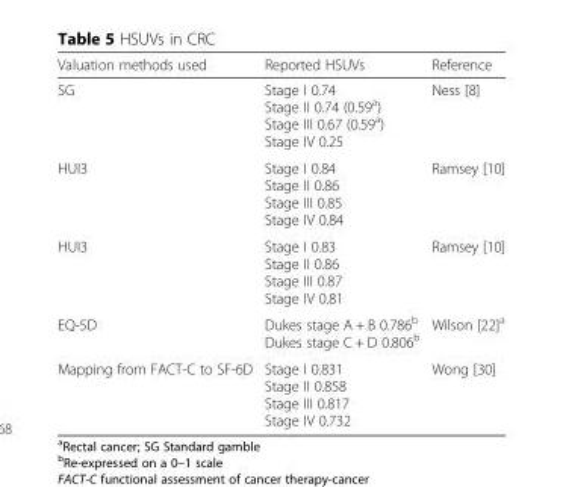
<table><thead><tr><td>Valuation methods used</td><td>Reported HSUVs</td><td>Reference</td></tr></thead><tbody><tr><td>SG</td><td>Stage I 0.74 Stage II 0.74 (0.59<sup>a</sup>) Stage III 0.67 (0.59<sup>a</sup>) Stage IV 0.25</td><td>Ness [8]</td></tr><tr><td>HUI3</td><td>Stage I 0.84 Stage II 0.86 Stage III 0.85 Stage IV 0.84</td><td>Ramsey [10]</td></tr><tr><td>HUI3</td><td>Stage I 0.83 Stage II 0.86 Stage III 0.87 Stage IV 0.81</td><td>Ramsey [10]</td></tr><tr><td>EQ-5D</td><td>Dukes stage A + B 0.786<sup>b</sup> Dukes stage C + D 0.806<sup>b</sup></td><td>Wilson [22]<sup>a</sup></td></tr><tr><td>Mapping from FACT-C to SF-6D</td><td>Stage I 0.831 Stage II 0.858 Stage III 0.817 Stage IV 0.732</td><td>Wong [30]</td></tr></tbody></table>